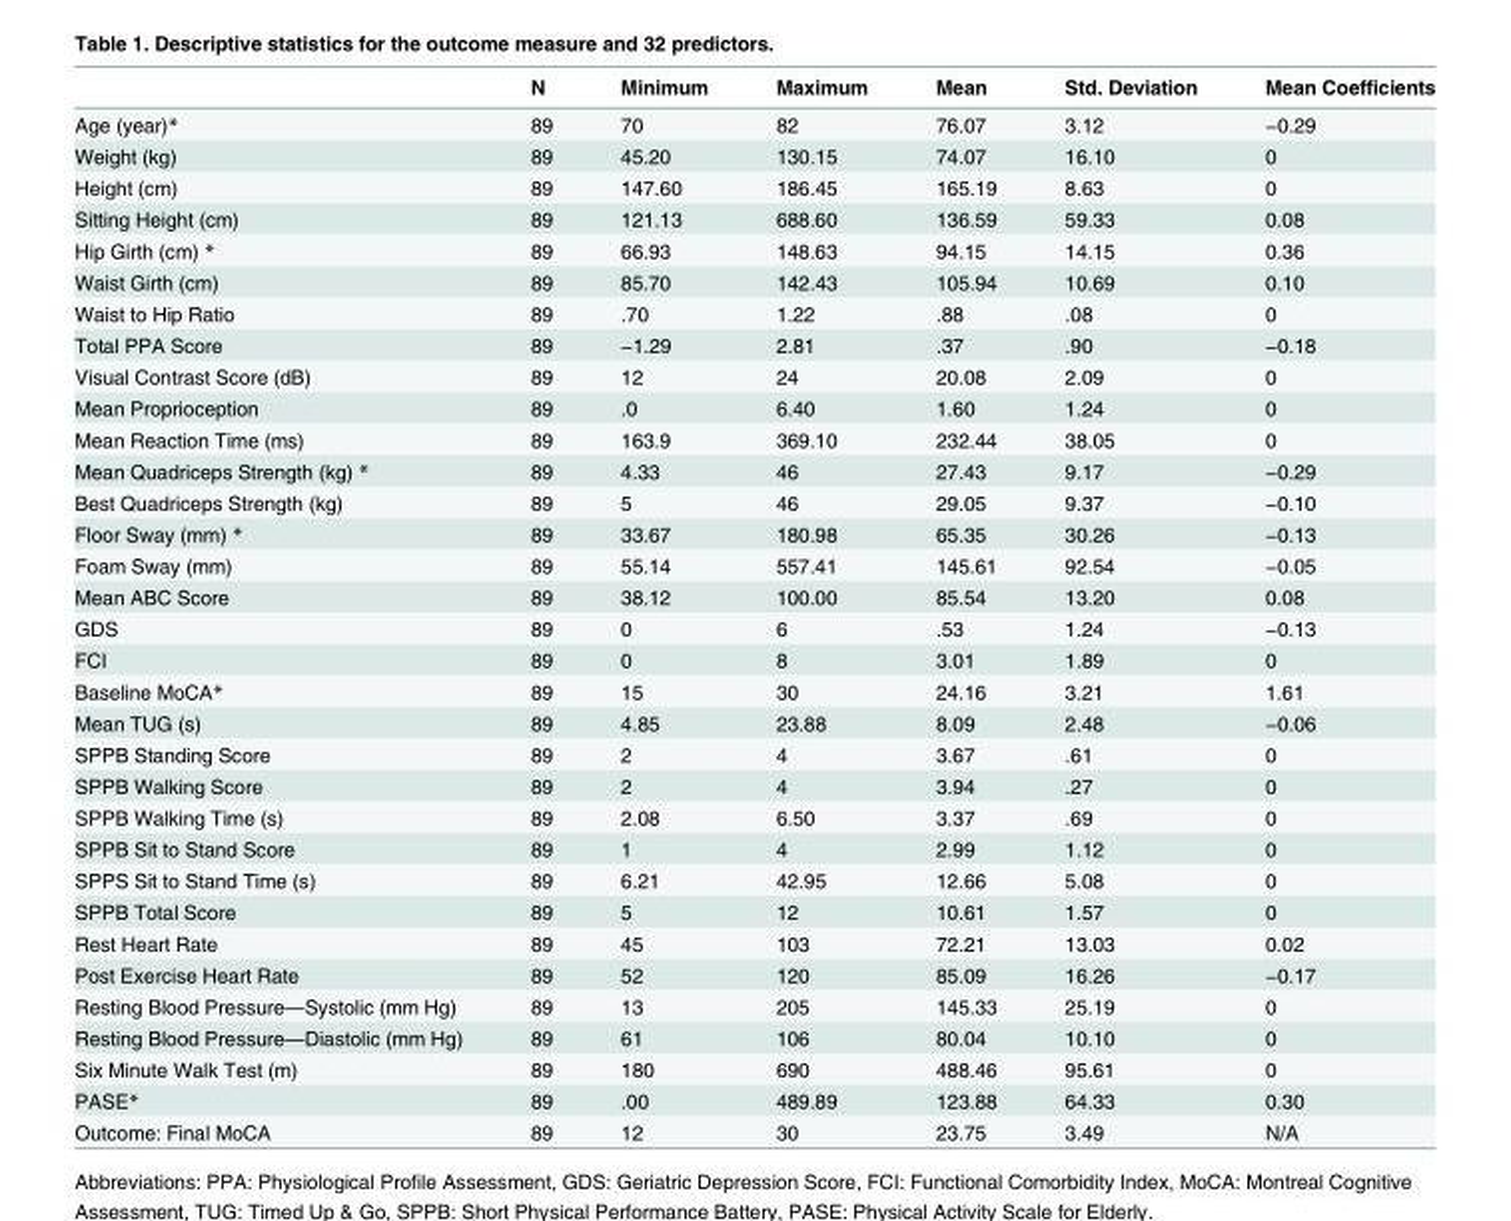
<table><thead><tr><td></td><td>N</td><td>Minimum</td><td>Maximum</td><td>Mean</td><td>Std. Deviation</td><td>Mean Coefficients</td></tr></thead><tbody><tr><td>Age (year)*</td><td>89</td><td>70</td><td>82</td><td>76.07</td><td>3.12</td><td>−0.29</td></tr><tr><td>Weight (kg)</td><td>89</td><td>45.20</td><td>130.15</td><td>74.07</td><td>16.10</td><td>0</td></tr><tr><td>Height (cm)</td><td>89</td><td>147.60</td><td>186.45</td><td>165.19</td><td>8.63</td><td>0</td></tr><tr><td>Sitting Height (cm)</td><td>89</td><td>121.13</td><td>688.60</td><td>136.59</td><td>59.33</td><td>0.08</td></tr><tr><td>Hip Girth (cm) *</td><td>89</td><td>66.93</td><td>148.63</td><td>94.15</td><td>14.15</td><td>0.36</td></tr><tr><td>Waist Girth (cm)</td><td>89</td><td>85.70</td><td>142.43</td><td>105.94</td><td>10.69</td><td>0.10</td></tr><tr><td>Waist to Hip Ratio</td><td>89</td><td>.70</td><td>1.22</td><td>.88</td><td>.08</td><td>0</td></tr><tr><td>Total PPA Score</td><td>89</td><td>−1.29</td><td>2.81</td><td>.37</td><td>.90</td><td>−0.18</td></tr><tr><td>Visual Contrast Score (dB)</td><td>89</td><td>12</td><td>24</td><td>20.08</td><td>2.09</td><td>0</td></tr><tr><td>Mean Proprioception</td><td>89</td><td>.0</td><td>6.40</td><td>1.60</td><td>1.24</td><td>0</td></tr><tr><td>Mean Reaction Time (ms)</td><td>89</td><td>163.9</td><td>369.10</td><td>232.44</td><td>38.05</td><td>0</td></tr><tr><td>Mean Quadriceps Strength (kg) *</td><td>89</td><td>4.33</td><td>46</td><td>27.43</td><td>9.17</td><td>−0.29</td></tr><tr><td>Best Quadriceps Strength (kg)</td><td>89</td><td>5</td><td>46</td><td>29.05</td><td>9.37</td><td>−0.10</td></tr><tr><td>Floor Sway (mm) *</td><td>89</td><td>33.67</td><td>180.98</td><td>65.35</td><td>30.26</td><td>−0.13</td></tr><tr><td>Foam Sway (mm)</td><td>89</td><td>55.14</td><td>557.41</td><td>145.61</td><td>92.54</td><td>−0.05</td></tr><tr><td>Mean ABC Score</td><td>89</td><td>38.12</td><td>100.00</td><td>85.54</td><td>13.20</td><td>0.08</td></tr><tr><td>GDS</td><td>89</td><td>0</td><td>6</td><td>.53</td><td>1.24</td><td>−0.13</td></tr><tr><td>FCI</td><td>89</td><td>0</td><td>8</td><td>3.01</td><td>1.89</td><td>0</td></tr><tr><td>Baseline MoCA*</td><td>89</td><td>15</td><td>30</td><td>24.16</td><td>3.21</td><td>1.61</td></tr><tr><td>Mean TUG (s)</td><td>89</td><td>4.85</td><td>23.88</td><td>8.09</td><td>2.48</td><td>−0.06</td></tr><tr><td>SPPB Standing Score</td><td>89</td><td>2</td><td>4</td><td>3.67</td><td>.61</td><td>0</td></tr><tr><td>SPPB Walking Score</td><td>89</td><td>2</td><td>4</td><td>3.94</td><td>.27</td><td>0</td></tr><tr><td>SPPB Walking Time (s)</td><td>89</td><td>2.08</td><td>6.50</td><td>3.37</td><td>.69</td><td>0</td></tr><tr><td>SPPB Sit to Stand Score</td><td>89</td><td>1</td><td>4</td><td>2.99</td><td>1.12</td><td>0</td></tr><tr><td>SPPS Sit to Stand Time (s)</td><td>89</td><td>6.21</td><td>42.95</td><td>12.66</td><td>5.08</td><td>0</td></tr><tr><td>SPPB Total Score</td><td>89</td><td>5</td><td>12</td><td>10.61</td><td>1.57</td><td>0</td></tr><tr><td>Rest Heart Rate</td><td>89</td><td>45</td><td>103</td><td>72.21</td><td>13.03</td><td>0.02</td></tr><tr><td>Post Exercise Heart Rate</td><td>89</td><td>52</td><td>120</td><td>85.09</td><td>16.26</td><td>−0.17</td></tr><tr><td>Resting Blood Pressure—Systolic (mm Hg)</td><td>89</td><td>13</td><td>205</td><td>145.33</td><td>25.19</td><td>0</td></tr><tr><td>Resting Blood Pressure—Diastolic (mm Hg)</td><td>89</td><td>61</td><td>106</td><td>80.04</td><td>10.10</td><td>0</td></tr><tr><td>Six Minute Walk Test (m)</td><td>89</td><td>180</td><td>690</td><td>488.46</td><td>95.61</td><td>0</td></tr><tr><td>PASE*</td><td>89</td><td>.00</td><td>489.89</td><td>123.88</td><td>64.33</td><td>0.30</td></tr><tr><td>Outcome: Final MoCA</td><td>89</td><td>12</td><td>30</td><td>23.75</td><td>3.49</td><td>N/A</td></tr></tbody></table>